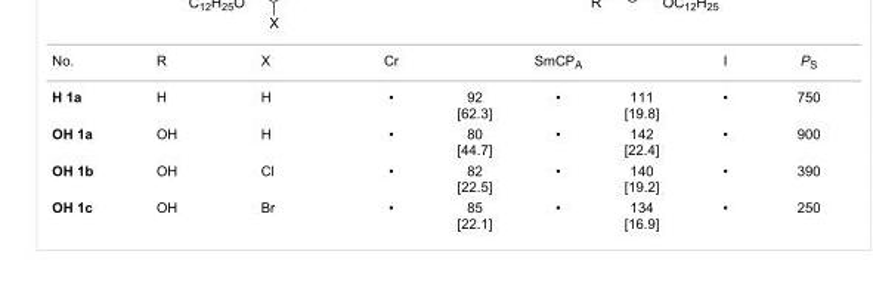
<table><tbody><tr><td>No.</td><td>R</td><td>X</td><td>Cr</td><td></td><td>SmCP<sub>A</sub></td><td></td><td>I</td><td>P<sub>S</sub></td></tr><tr><td>H 1a</td><td>H</td><td>H</td><td>•</td><td>92 [62.3]</td><td>•</td><td>111 [19.8]</td><td>•</td><td>750</td></tr><tr><td>OH 1a</td><td>OH</td><td>H</td><td>•</td><td>80 [44.7]</td><td>•</td><td>142 [22.4]</td><td>•</td><td>900</td></tr><tr><td>OH 1b</td><td>OH</td><td>Cl</td><td>•</td><td>82 [22.5]</td><td>•</td><td>140 [19.2]</td><td>•</td><td>390</td></tr><tr><td>OH 1c</td><td>OH</td><td>Br</td><td>•</td><td>85 [22.1]</td><td>•</td><td>134 [16.9]</td><td>•</td><td>250</td></tr></tbody></table>